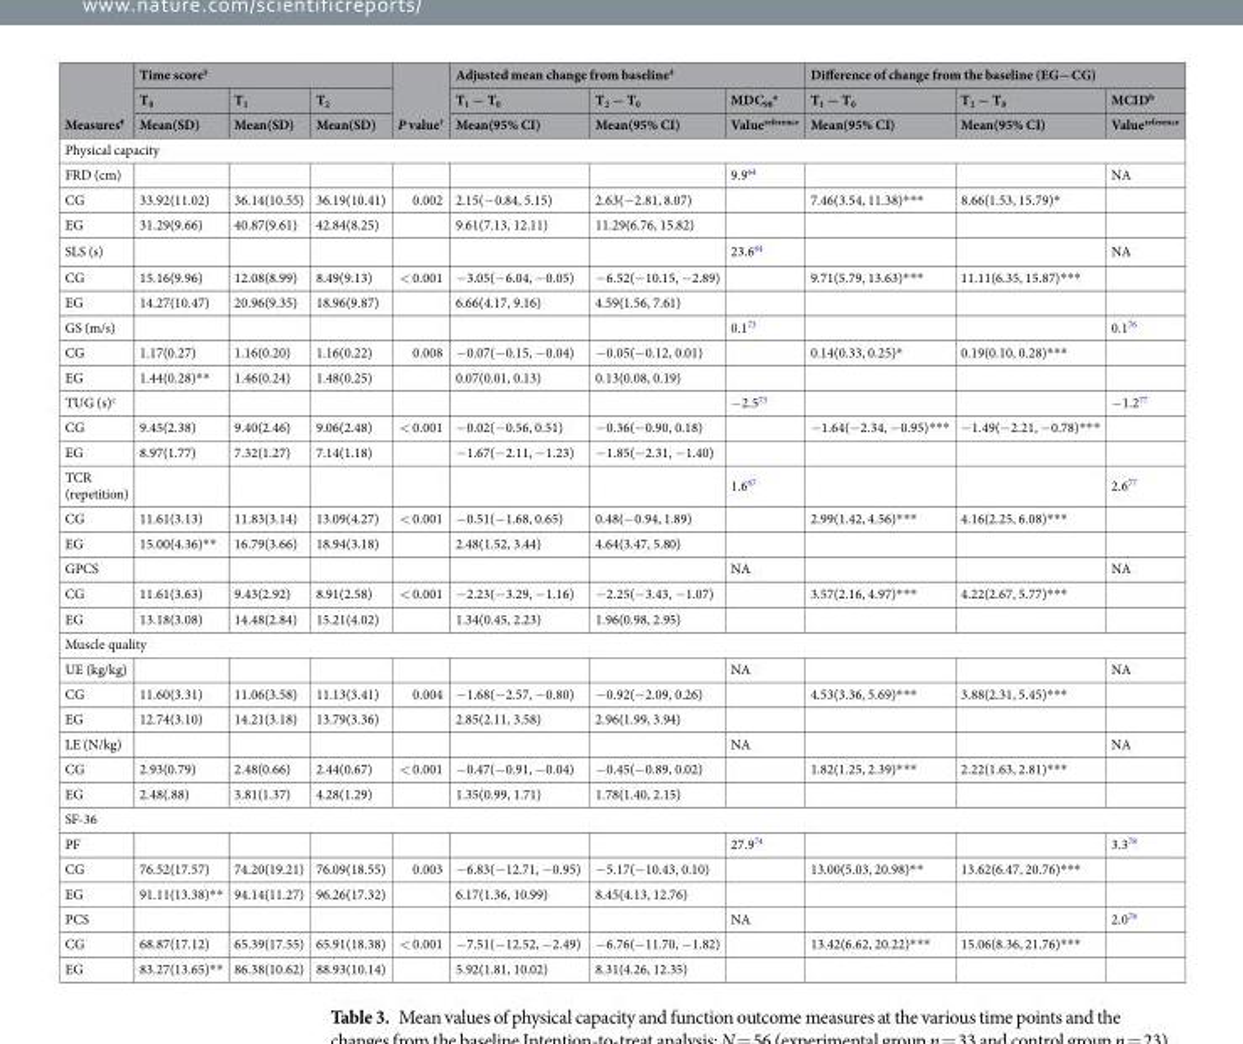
<table><thead><tr><td rowspan="3">Measures<sup>¶</sup></td><td colspan="3">Time score<sup>§</sup></td><td rowspan="3">P value<sup>†</sup></td><td colspan="3">Adjusted mean change from baseline<sup>‡</sup></td><td colspan="3">Difference of change from the baseline (EG−CG)</td></tr><tr><td rowspan="2">T<sub>0</sub> Mean(SD)</td><td rowspan="2">T<sub>1</sub> Mean(SD)</td><td rowspan="2">T<sub>2</sub> Mean(SD)</td><td rowspan="2">T<sub>1</sub> − T<sub>0</sub> Mean(95% CI)</td><td rowspan="2">T<sub>2</sub> − T<sub>0</sub> Mean(95% CI)</td><td rowspan="2">MDC<sub>90</sub> <sup>a</sup> Value<sup>reference</sup></td><td rowspan="2">T<sub>1</sub> − T<sub>0</sub> Mean(95% CI)</td><td rowspan="2">T<sub>2</sub> − T<sub>0</sub> Mean(95% CI)</td><td rowspan="2">MCID<sup>b</sup> Value<sup>reference</sup></td></tr><tr></tr></thead><tbody><tr><td colspan="11">Physical capacity</td></tr><tr><td>FRD (cm)</td><td></td><td></td><td></td><td></td><td></td><td></td><td>9.9<sup>64</sup></td><td></td><td></td><td>NA</td></tr><tr><td>CG</td><td>33.92(11.02)</td><td>36.14(10.55)</td><td>36.19(10.41)</td><td>0.002</td><td>2.15(−0.84, 5.15)</td><td>2.63(−2.81, 8.07)</td><td></td><td>7.46(3.54, 11.38)***</td><td>8.66(1.53, 15.79)*</td><td></td></tr><tr><td>EG</td><td>31.29(9.66)</td><td>40.87(9.61)</td><td>42.84(8.25)</td><td></td><td>9.61(7.13, 12.11)</td><td>11.29(6.76, 15.82)</td><td></td><td></td><td></td><td></td></tr><tr><td>SLS (s)</td><td></td><td></td><td></td><td></td><td></td><td></td><td>23.6<sup>64</sup></td><td></td><td></td><td>NA</td></tr><tr><td>CG</td><td>15.16(9.96)</td><td>12.08(8.99)</td><td>8.49(9.13)</td><td>&lt; 0.001</td><td>−3.05(−6.04, −0.05)</td><td>−6.52(−10.15, −2.89)</td><td></td><td>9.71(5.79, 13.63)***</td><td>11.11(6.35, 15.87)***</td><td></td></tr><tr><td>EG</td><td>14.27(10.47)</td><td>20.96(9.35)</td><td>18.96(9.87)</td><td></td><td>6.66(4.17, 9.16)</td><td>4.59(1.56, 7.61)</td><td></td><td></td><td></td><td></td></tr><tr><td>GS (m/s)</td><td></td><td></td><td></td><td></td><td></td><td></td><td>0.1<sup>73</sup></td><td></td><td></td><td>0.1<sup>76</sup></td></tr><tr><td>CG</td><td>1.17(0.27)</td><td>1.16(0.20)</td><td>1.16(0.22)</td><td>0.008</td><td>−0.07(−0.15, −0.04)</td><td>−0.05(−0.12, 0.01)</td><td></td><td>0.14(0.33, 0.25)*</td><td>0.19(0.10, 0.28)***</td><td></td></tr><tr><td>EG</td><td>1.44(0.28)**</td><td>1.46(0.24)</td><td>1.48(0.25)</td><td></td><td>0.07(0.01, 0.13)</td><td>0.13(0.08, 0.19)</td><td></td><td></td><td></td><td></td></tr><tr><td>TUG (s)<sup>c</sup></td><td></td><td></td><td></td><td></td><td></td><td></td><td>−2.5<sup>73</sup></td><td></td><td></td><td>−1.2<sup>77</sup></td></tr><tr><td>CG</td><td>9.45(2.38)</td><td>9.40(2.46)</td><td>9.06(2.48)</td><td>&lt; 0.001</td><td>−0.02(−0.56, 0.51)</td><td>−0.36(−0.90, 0.18)</td><td></td><td>−1.64(−2.34, −0.95)***</td><td>−1.49(−2.21, −0.78)***</td><td></td></tr><tr><td>EG</td><td>8.97(1.77)</td><td>7.32(1.27)</td><td>7.14(1.18)</td><td></td><td>−1.67(−2.11, −1.23)</td><td>−1.85(−2.31, −1.40)</td><td></td><td></td><td></td><td></td></tr><tr><td>TCR (repetition)</td><td></td><td></td><td></td><td></td><td></td><td></td><td>1.6<sup>67</sup></td><td></td><td></td><td>2.6<sup>77</sup></td></tr><tr><td>CG</td><td>11.61(3.13)</td><td>11.83(3.14)</td><td>13.09(4.27)</td><td>&lt; 0.001</td><td>−0.51(−1.68, 0.65)</td><td>0.48(−0.94, 1.89)</td><td></td><td>2.99(1.42, 4.56)***</td><td>4.16(2.25, 6.08)***</td><td></td></tr><tr><td>EG</td><td>15.00(4.36)**</td><td>16.79(3.66)</td><td>18.94(3.18)</td><td></td><td>2.48(1.52, 3.44)</td><td>4.64(3.47, 5.80)</td><td></td><td></td><td></td><td></td></tr><tr><td>GPCS</td><td></td><td></td><td></td><td></td><td></td><td></td><td>NA</td><td></td><td></td><td>NA</td></tr><tr><td>CG</td><td>11.61(3.63)</td><td>9.43(2.92)</td><td>8.91(2.58)</td><td>&lt; 0.001</td><td>−2.23(−3.29, −1.16)</td><td>−2.25(−3.43, −1.07)</td><td></td><td>3.57(2.16, 4.97)***</td><td>4.22(2.67, 5.77)***</td><td></td></tr><tr><td>EG</td><td>13.18(3.08)</td><td>14.48(2.84)</td><td>15.21(4.02)</td><td></td><td>1.34(0.45, 2.23)</td><td>1.96(0.98, 2.95)</td><td></td><td></td><td></td><td></td></tr><tr><td colspan="11">Muscle quality</td></tr><tr><td>UE (kg/kg)</td><td></td><td></td><td></td><td></td><td></td><td></td><td>NA</td><td></td><td></td><td>NA</td></tr><tr><td>CG</td><td>11.60(3.31)</td><td>11.06(3.58)</td><td>11.13(3.41)</td><td>0.004</td><td>−1.68(−2.57, −0.80)</td><td>−0.92(−2.09, 0.26)</td><td></td><td>4.53(3.36, 5.69)***</td><td>3.88(2.31, 5.45)***</td><td></td></tr><tr><td>EG</td><td>12.74(3.10)</td><td>14.21(3.18)</td><td>13.79(3.36)</td><td></td><td>2.85(2.11, 3.58)</td><td>2.96(1.99, 3.94)</td><td></td><td></td><td></td><td></td></tr><tr><td>LE (N/kg)</td><td></td><td></td><td></td><td></td><td></td><td></td><td>NA</td><td></td><td></td><td>NA</td></tr><tr><td>CG</td><td>2.93(0.79)</td><td>2.48(0.66)</td><td>2.44(0.67)</td><td>&lt; 0.001</td><td>−0.47(−0.91, −0.04)</td><td>−0.45(−0.89, 0.02)</td><td></td><td>1.82(1.25, 2.39)***</td><td>2.22(1.63, 2.81)***</td><td></td></tr><tr><td>EG</td><td>2.48(.88)</td><td>3.81(1.37)</td><td>4.28(1.29)</td><td></td><td>1.35(0.99, 1.71)</td><td>1.78(1.40, 2.15)</td><td></td><td></td><td></td><td></td></tr><tr><td colspan="11">SF-36</td></tr><tr><td>PF</td><td></td><td></td><td></td><td></td><td></td><td></td><td>27.9<sup>74</sup></td><td></td><td></td><td>3.3<sup>78</sup></td></tr><tr><td>CG</td><td>76.52(17.57)</td><td>74.20(19.21)</td><td>76.09(18.55)</td><td>0.003</td><td>−6.83(−12.71, −0.95)</td><td>−5.17(−10.43, 0.10)</td><td></td><td>13.00(5.03, 20.98)**</td><td>13.62(6.47, 20.76)***</td><td></td></tr><tr><td>EG</td><td>91.11(13.38)**</td><td>94.14(11.27)</td><td>96.26(17.32)</td><td></td><td>6.17(1.36, 10.99)</td><td>8.45(4.13, 12.76)</td><td></td><td></td><td></td><td></td></tr><tr><td>PCS</td><td></td><td></td><td></td><td></td><td></td><td></td><td>NA</td><td></td><td></td><td>2.0<sup>78</sup></td></tr><tr><td>CG</td><td>68.87(17.12)</td><td>65.39(17.55)</td><td>65.91(18.38)</td><td>&lt; 0.001</td><td>−7.51(−12.52, −2.49)</td><td>−6.76(−11.70, −1.82)</td><td></td><td>13.42(6.62, 20.22)***</td><td>15.06(8.36, 21.76)***</td><td></td></tr><tr><td>EG</td><td>83.27(13.65)**</td><td>86.38(10.62)</td><td>88.93(10.14)</td><td></td><td>5.92(1.81, 10.02)</td><td>8.31(4.26, 12.35)</td><td></td><td></td><td></td><td></td></tr></tbody></table>